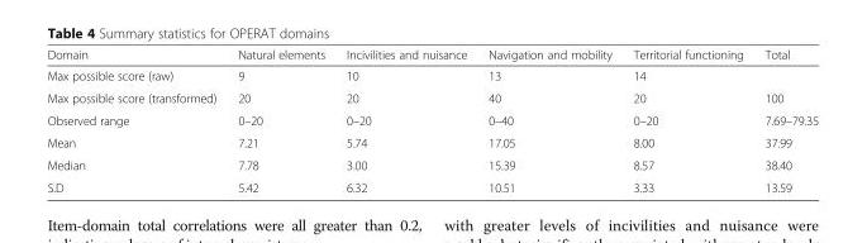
<table><thead><tr><td>Domain</td><td>Natural elements</td><td>Incivilities and nuisance</td><td>Navigation and mobility</td><td>Territorial functioning</td><td>Total</td></tr></thead><tbody><tr><td>Max possible score (raw)</td><td>9</td><td>10</td><td>13</td><td>14</td><td></td></tr><tr><td>Max possible score (transformed)</td><td>20</td><td>20</td><td>40</td><td>20</td><td>100</td></tr><tr><td>Observed range</td><td>0–20</td><td>0–20</td><td>0–40</td><td>0–20</td><td>7.69–79.35</td></tr><tr><td>Mean</td><td>7.21</td><td>5.74</td><td>17.05</td><td>8.00</td><td>37.99</td></tr><tr><td>Median</td><td>7.78</td><td>3.00</td><td>15.39</td><td>8.57</td><td>38.40</td></tr><tr><td>S.D</td><td>5.42</td><td>6.32</td><td>10.51</td><td>3.33</td><td>13.59</td></tr></tbody></table>